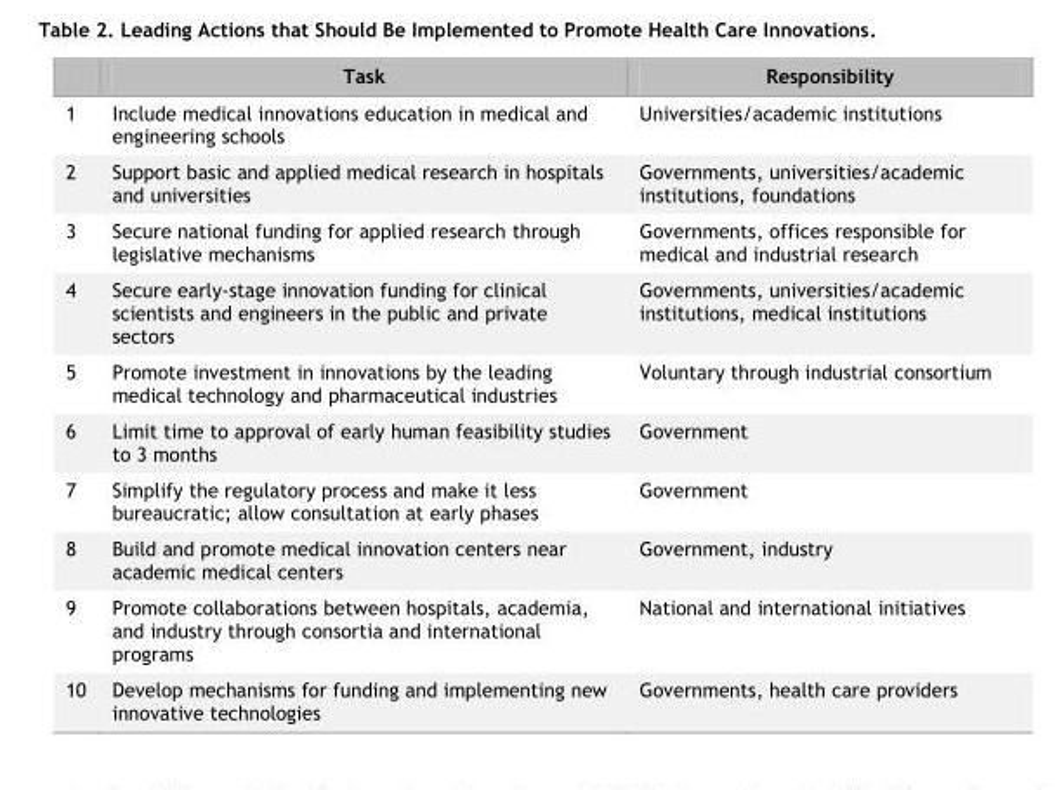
<table><thead><tr><td></td><td>Task</td><td>Responsibility</td></tr></thead><tbody><tr><td>1</td><td>Include medical innovations education in medical and engineering schools</td><td>Universities/academic institutions</td></tr><tr><td>2</td><td>Support basic and applied medical research in hospitals and universities</td><td>Governments, universities/academic institutions, foundations</td></tr><tr><td>3</td><td>Secure national funding for applied research through legislative mechanisms</td><td>Governments, offices responsible for medical and industrial research</td></tr><tr><td>4</td><td>Secure early-stage innovation funding for clinical scientists and engineers in the public and private sectors</td><td>Governments, universities/academic institutions, medical institutions</td></tr><tr><td>5</td><td>Promote investment in innovations by the leading medical technology and pharmaceutical industries</td><td>Voluntary through industrial consortium</td></tr><tr><td>6</td><td>Limit time to approval of early human feasibility studies to 3 months</td><td>Government</td></tr><tr><td>7</td><td>Simplify the regulatory process and make it less bureaucratic; allow consultation at early phases</td><td>Government</td></tr><tr><td>8</td><td>Build and promote medical innovation centers near academic medical centers</td><td>Government, industry</td></tr><tr><td>9</td><td>Promote collaborations between hospitals, academia, and industry through consortia and international programs</td><td>National and international initiatives</td></tr><tr><td>10</td><td>Develop mechanisms for funding and implementing new innovative technologies</td><td>Governments, health care providers</td></tr></tbody></table>